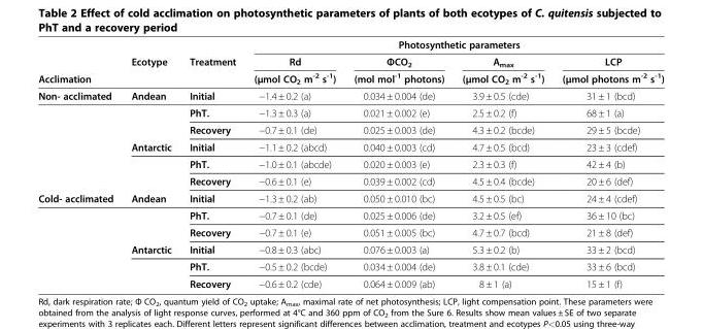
<table><thead><tr><td rowspan="3">Acclimation</td><td rowspan="3">Ecotype</td><td rowspan="3">Treatment</td><td colspan="4">Photosynthetic parameters</td></tr><tr><td rowspan="2">Rd (μmol CO<sub>2</sub> m<sup>-2</sup> s<sup>-1</sup>)</td><td rowspan="2">ΦCO<sub>2</sub> (mol mol<sup>-1</sup> photons)</td><td rowspan="2">A<sub>max</sub> (μmol CO<sub>2</sub> m<sup>-2</sup> s<sup>-1</sup>)</td><td rowspan="2">LCP (μmol photons m<sup>-2</sup> s<sup>-1</sup>)</td></tr><tr></tr></thead><tbody><tr><td rowspan="6">Non- acclimated</td><td>Andean</td><td>Initial</td><td>−1.4 ± 0.2 (a)</td><td>0.034 ± 0.004 (de)</td><td>3.9 ± 0.5 (cde)</td><td>31 ± 1 (bcd)</td></tr><tr><td></td><td>PhT.</td><td>−1.3 ± 0.3 (a)</td><td>0.021 ± 0.002 (e)</td><td>2.5 ± 0.2 (f)</td><td>68 ± 1 (a)</td></tr><tr><td></td><td>Recovery</td><td>−0.7 ± 0.1 (de)</td><td>0.025 ± 0.003 (de)</td><td>4.3 ± 0.2 (bcde)</td><td>29 ± 5 (bcde)</td></tr><tr><td>Antarctic</td><td>Initial</td><td>−1.1 ± 0.2 (abcd)</td><td>0.040 ± 0.003 (cd)</td><td>4.7 ± 0.5 (bcd)</td><td>23 ± 3 (cdef)</td></tr><tr><td></td><td>PhT.</td><td>−1.0 ± 0.1 (abcde)</td><td>0.020 ± 0.003 (e)</td><td>2.3 ± 0.3 (f)</td><td>42 ± 4 (b)</td></tr><tr><td></td><td>Recovery</td><td>−0.6 ± 0.1 (e)</td><td>0.039 ± 0.002 (cd)</td><td>4.5 ± 0.4 (bcde)</td><td>20 ± 6 (def)</td></tr><tr><td rowspan="6">Cold- acclimated</td><td>Andean</td><td>Initial</td><td>−1.3 ± 0.2 (ab)</td><td>0.050 ± 0.010 (bc)</td><td>4.5 ± 0.5 (bc)</td><td>24 ± 4 (cdef)</td></tr><tr><td></td><td>PhT.</td><td>−0.7 ± 0.1 (de)</td><td>0.025 ± 0.006 (de)</td><td>3.2 ± 0.5 (ef)</td><td>36 ± 10 (bc)</td></tr><tr><td></td><td>Recovery</td><td>−0.7 ± 0.1 (e)</td><td>0.051 ± 0.005 (bc)</td><td>4.7 ± 0.7 (bcd)</td><td>21 ± 8 (def)</td></tr><tr><td>Antarctic</td><td>Initial</td><td>−0.8 ± 0.3 (abc)</td><td>0.076 ± 0.003 (a)</td><td>5.3 ± 0.2 (b)</td><td>33 ± 2 (bcd)</td></tr><tr><td></td><td>PhT.</td><td>−0.5 ± 0.2 (bcde)</td><td>0.034 ± 0.004 (de)</td><td>3.8 ± 0.1 (cde)</td><td>33 ± 6 (bcd)</td></tr><tr><td></td><td>Recovery</td><td>−0.6 ± 0.2 (cde)</td><td>0.064 ± 0.009 (ab)</td><td>8 ± 1 (a)</td><td>15 ± 1 (f)</td></tr></tbody></table>